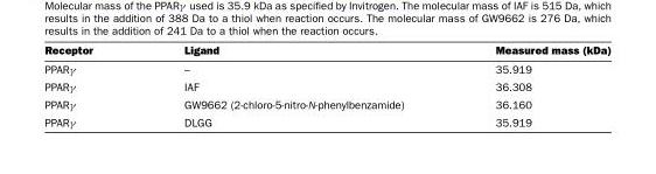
<table><thead><tr><td>Receptor</td><td>Ligand</td><td>Measured mass (kDa)</td></tr></thead><tbody><tr><td>PPARγ</td><td>–</td><td>35.919</td></tr><tr><td>PPARγ</td><td>IAF</td><td>36.308</td></tr><tr><td>PPARγ</td><td>GW9662 (2-chloro-5-nitro-N-phenylbenzamide)</td><td>36.160</td></tr><tr><td>PPARγ</td><td>DLGG</td><td>35.919</td></tr></tbody></table>